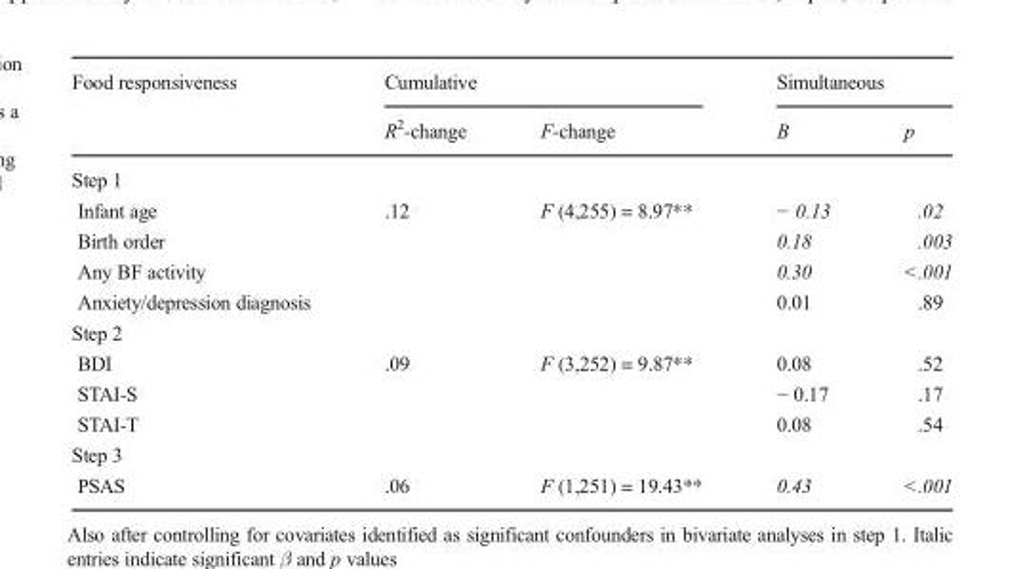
<table><thead><tr><td rowspan="2">Food responsiveness</td><td colspan="2">Cumulative</td><td colspan="2">Simultaneous</td></tr><tr><td>R<sup>2</sup>-change</td><td>F-change</td><td>Β</td><td>p</td></tr></thead><tbody><tr><td colspan="5">Step 1</td></tr><tr><td>Infant age</td><td rowspan="4">.12</td><td rowspan="4">F (4,255) = 8.97**</td><td>− 0.13</td><td>.02</td></tr><tr><td>Birth order</td><td>0.18</td><td>.003</td></tr><tr><td>Any BF activity</td><td>0.30</td><td>&lt;.001</td></tr><tr><td>Anxiety/depression diagnosis</td><td>0.01</td><td>.89</td></tr><tr><td colspan="5">Step 2</td></tr><tr><td>BDI</td><td rowspan="3">.09</td><td rowspan="3">F (3,252) = 9.87**</td><td>0.08</td><td>.52</td></tr><tr><td>STAI-S</td><td>− 0.17</td><td>.17</td></tr><tr><td>STAI-T</td><td>0.08</td><td>.54</td></tr><tr><td colspan="5">Step 3</td></tr><tr><td>PSAS</td><td>.06</td><td>F (1,251) = 19.43**</td><td>0.43</td><td>&lt;.001</td></tr></tbody></table>